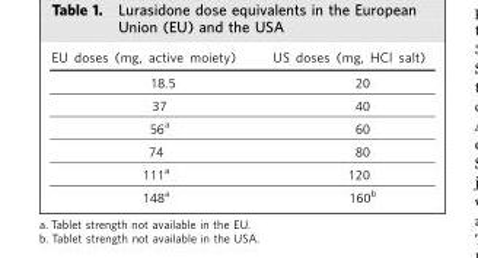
<table><thead><tr><td>EU doses (mg, active moiety)</td><td>US doses (mg, HCl salt)</td></tr></thead><tbody><tr><td>18.5</td><td>20</td></tr><tr><td>37</td><td>40</td></tr><tr><td>56<sup>a</sup></td><td>60</td></tr><tr><td>74</td><td>80</td></tr><tr><td>111<sup>a</sup></td><td>120</td></tr><tr><td>148<sup>a</sup></td><td>160<sup>b</sup></td></tr></tbody></table>